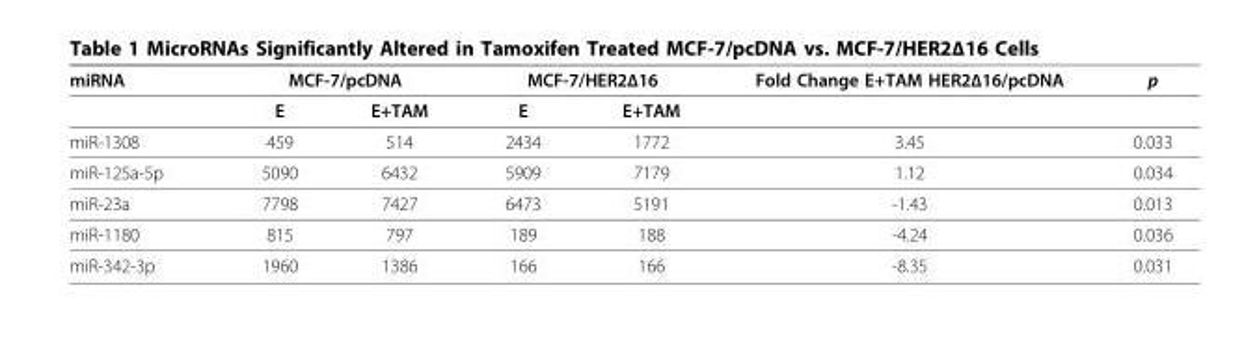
<table><thead><tr><td rowspan="2">miRNA</td><td colspan="2">MCF-7/pcDNA</td><td colspan="2">MCF-7/HER2Δ16</td><td rowspan="2">Fold Change E+TAM HER2Δ16/pcDNA</td><td rowspan="2">p</td></tr><tr><td>E</td><td>E+TAM</td><td>E</td><td>E+TAM</td></tr></thead><tbody><tr><td>miR-1308</td><td>459</td><td>514</td><td>2434</td><td>1772</td><td>3.45</td><td>0.033</td></tr><tr><td>miR-125a-5p</td><td>5090</td><td>6432</td><td>5909</td><td>7179</td><td>1.12</td><td>0.034</td></tr><tr><td>miR-23a</td><td>7798</td><td>7427</td><td>6473</td><td>5191</td><td>-1.43</td><td>0.013</td></tr><tr><td>miR-1180</td><td>815</td><td>797</td><td>189</td><td>188</td><td>-4.24</td><td>0.036</td></tr><tr><td>miR-342-3p</td><td>1960</td><td>1386</td><td>166</td><td>166</td><td>-8.35</td><td>0.031</td></tr></tbody></table>